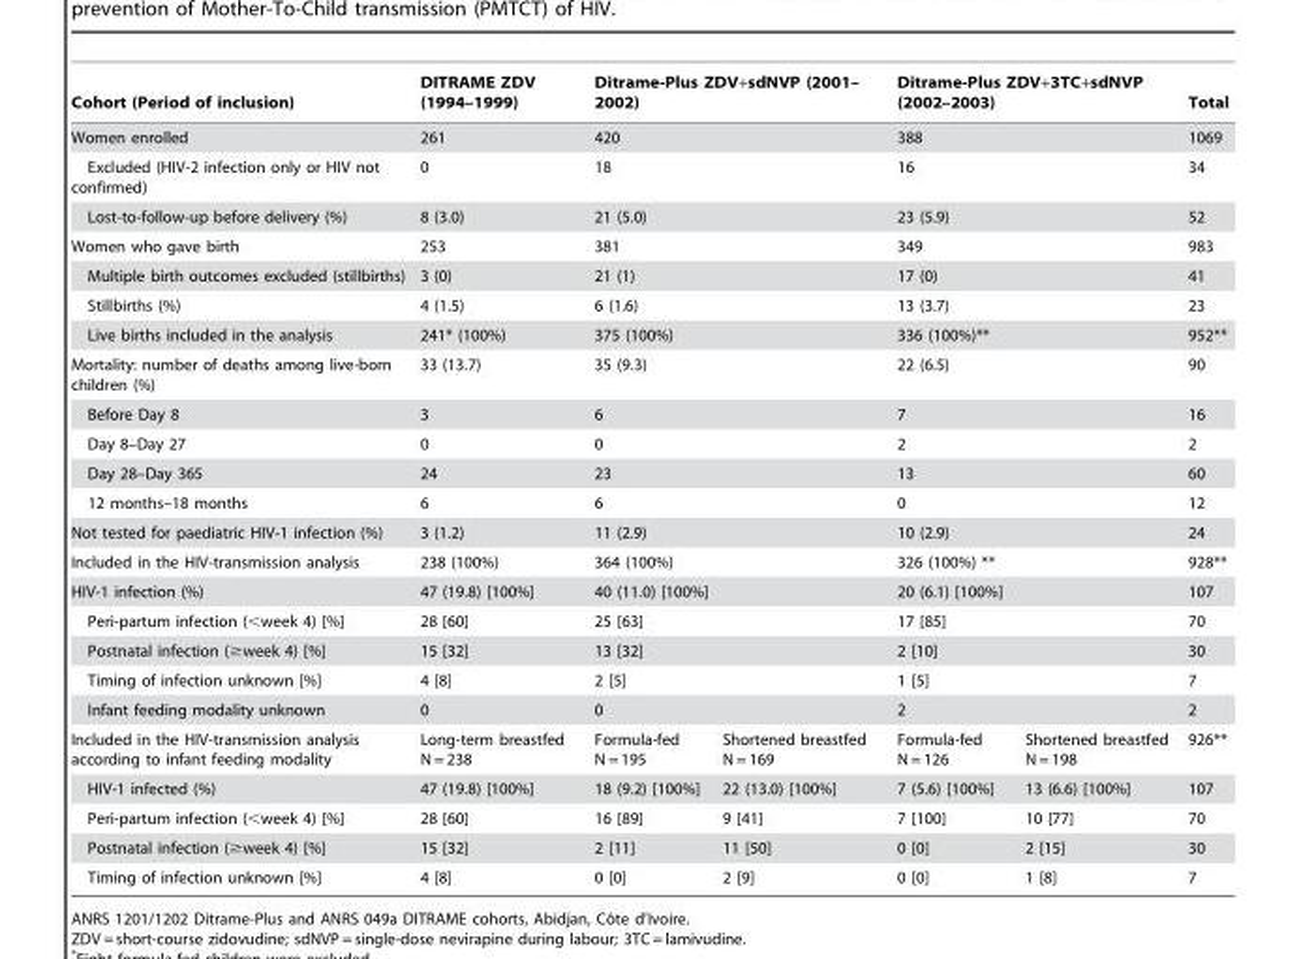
<table><thead><tr><td>Cohort (Period of inclusion)</td><td>DITRAME ZDV (1994–1999)</td><td colspan="2">Ditrame-Plus ZDV+sdNVP (2001– 2002)</td><td colspan="2">Ditrame-Plus ZDV+3TC+sdNVP (2002–2003)</td><td>Total</td></tr></thead><tbody><tr><td>Women enrolled</td><td>261</td><td colspan="2">420</td><td colspan="2">388</td><td>1069</td></tr><tr><td>Excluded (HIV-2 infection only or HIV not confirmed)</td><td>0</td><td colspan="2">18</td><td colspan="2">16</td><td>34</td></tr><tr><td>Lost-to-follow-up before delivery (%)</td><td>8 (3.0)</td><td colspan="2">21 (5.0)</td><td colspan="2">23 (5.9)</td><td>52</td></tr><tr><td>Women who gave birth</td><td>253</td><td colspan="2">381</td><td colspan="2">349</td><td>983</td></tr><tr><td>Multiple birth outcomes excluded (stillbirths)</td><td>3 (0)</td><td colspan="2">21 (1)</td><td colspan="2">17 (0)</td><td>41</td></tr><tr><td>Stillbirths (%)</td><td>4 (1.5)</td><td colspan="2">6 (1.6)</td><td colspan="2">13 (3.7)</td><td>23</td></tr><tr><td>Live births included in the analysis</td><td>241* (100%)</td><td colspan="2">375 (100%)</td><td colspan="2">336 (100%)**</td><td>952**</td></tr><tr><td>Mortality: number of deaths among live-born children (%)</td><td>33 (13.7)</td><td colspan="2">35 (9.3)</td><td colspan="2">22 (6.5)</td><td>90</td></tr><tr><td>Before Day 8</td><td>3</td><td colspan="2">6</td><td colspan="2">7</td><td>16</td></tr><tr><td>Day 8–Day 27</td><td>0</td><td colspan="2">0</td><td colspan="2">2</td><td>2</td></tr><tr><td>Day 28–Day 365</td><td>24</td><td colspan="2">23</td><td colspan="2">13</td><td>60</td></tr><tr><td>12 months–18 months</td><td>6</td><td colspan="2">6</td><td colspan="2">0</td><td>12</td></tr><tr><td>Not tested for paediatric HIV-1 infection (%)</td><td>3 (1.2)</td><td colspan="2">11 (2.9)</td><td colspan="2">10 (2.9)</td><td>24</td></tr><tr><td>Included in the HIV-transmission analysis</td><td>238 (100%)</td><td colspan="2">364 (100%)</td><td colspan="2">326 (100%) **</td><td>928**</td></tr><tr><td>HIV-1 infection (%)</td><td>47 (19.8) [100%]</td><td colspan="2">40 (11.0) [100%]</td><td colspan="2">20 (6.1) [100%]</td><td>107</td></tr><tr><td>Peri-partum infection (&lt;week 4) [%]</td><td>28 [60]</td><td colspan="2">25 [63]</td><td colspan="2">17 [85]</td><td>70</td></tr><tr><td>Postnatal infection (≥week 4) [%]</td><td>15 [32]</td><td colspan="2">13 [32]</td><td colspan="2">2 [10]</td><td>30</td></tr><tr><td>Timing of infection unknown [%]</td><td>4 [8]</td><td colspan="2">2 [5]</td><td colspan="2">1 [5]</td><td>7</td></tr><tr><td>Infant feeding modality unknown</td><td>0</td><td colspan="2">0</td><td colspan="2">2</td><td>2</td></tr><tr><td>Included in the HIV-transmission analysis according to infant feeding modality</td><td>Long-term breastfed N = 238</td><td>Formula-fed N = 195</td><td>Shortened breastfed N = 169</td><td>Formula-fed N = 126</td><td>Shortened breastfed N = 198</td><td>926**</td></tr><tr><td>HIV-1 infected (%)</td><td>47 (19.8) [100%]</td><td>18 (9.2) [100%]</td><td>22 (13.0) [100%]</td><td>7 (5.6) [100%]</td><td>13 (6.6) [100%]</td><td>107</td></tr><tr><td>Peri-partum infection (&lt;week 4) [%]</td><td>28 [60]</td><td>16 [89]</td><td>9 [41]</td><td>7 [100]</td><td>10 [77]</td><td>70</td></tr><tr><td>Postnatal infection (≥week 4) [%]</td><td>15 [32]</td><td>2 [11]</td><td>11 [50]</td><td>0 [0]</td><td>2 [15]</td><td>30</td></tr><tr><td>Timing of infection unknown [%]</td><td>4 [8]</td><td>0 [0]</td><td>2 [9]</td><td>0 [0]</td><td>1 [8]</td><td>7</td></tr></tbody></table>